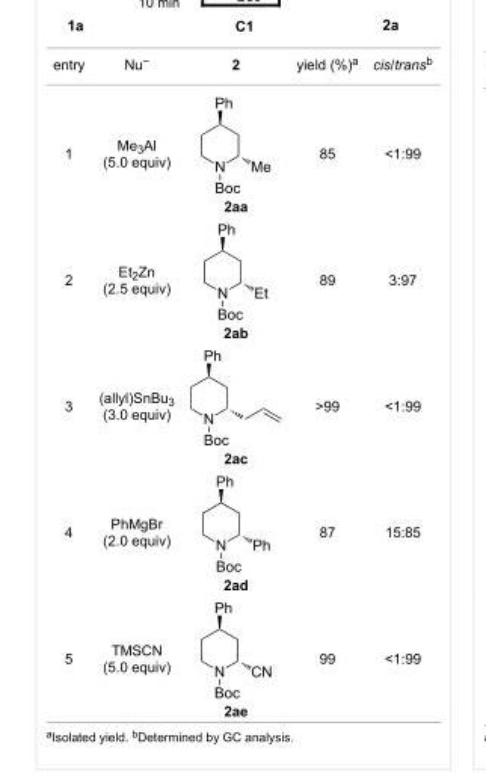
<table><tbody><tr><td>entry</td><td>Nu<sup>−</sup></td><td>2</td><td>yield (%)<sup>a</sup></td><td>cis/trans<sup>b</sup></td></tr><tr><td>1</td><td>Me<sub>3</sub>Al (5.0 equiv)</td><td>2aa</td><td>85</td><td>&lt;1:99</td></tr><tr><td>2</td><td>Et<sub>2</sub>Zn (2.5 equiv)</td><td>2ab</td><td>89</td><td>3:97</td></tr><tr><td>3</td><td>(allyl)SnBu<sub>3</sub> (3.0 equiv)</td><td>2ac</td><td>&gt;99</td><td>&lt;1:99</td></tr><tr><td>4</td><td>PhMgBr (2.0 equiv)</td><td>2ad</td><td>87</td><td>15:85</td></tr><tr><td>5</td><td>TMSCN (5.0 equiv)</td><td>2ae</td><td>99</td><td>&lt;1:99</td></tr></tbody></table>